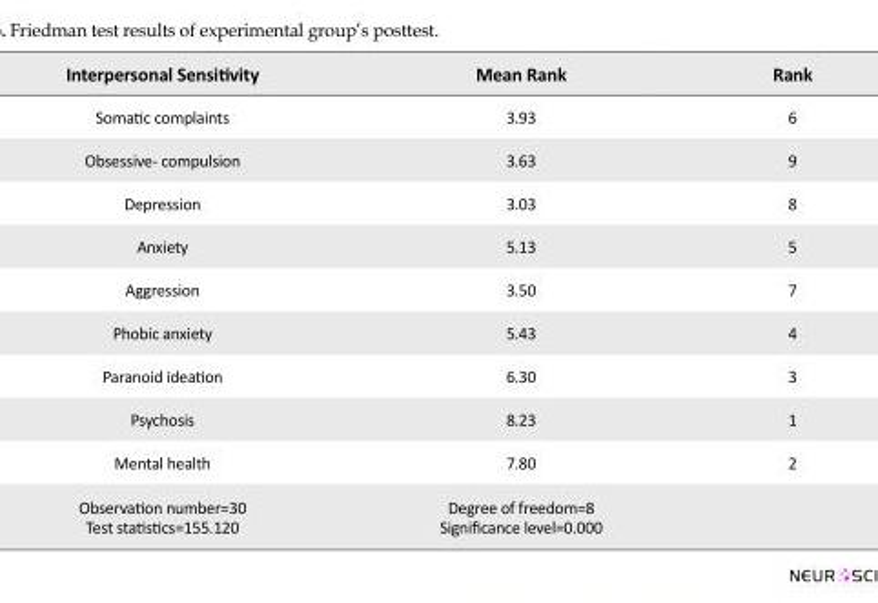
<table><thead><tr><td>Interpersonal Sensitivity</td><td>Mean Rank</td><td>Rank</td></tr></thead><tbody><tr><td>Somatic complaints</td><td>3.93</td><td>6</td></tr><tr><td>Obsessive- compulsion</td><td>3.63</td><td>9</td></tr><tr><td>Depression</td><td>3.03</td><td>8</td></tr><tr><td>Anxiety</td><td>5.13</td><td>5</td></tr><tr><td>Aggression</td><td>3.50</td><td>7</td></tr><tr><td>Phobic anxiety</td><td>5.43</td><td>4</td></tr><tr><td>Paranoid ideation</td><td>6.30</td><td>3</td></tr><tr><td>Psychosis</td><td>8.23</td><td>1</td></tr><tr><td>Mental health</td><td>7.80</td><td>2</td></tr><tr><td>Observation number=30 Test statistics=155.120</td><td>Degree of freedom=8 Significance level=0.000</td><td></td></tr></tbody></table>